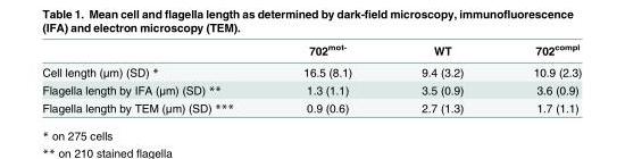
<table><thead><tr><td></td><td>702<sup>mot-</sup></td><td>WT</td><td>702<sup>compl</sup></td></tr></thead><tbody><tr><td>Cell length (μm) (SD) *</td><td>16.5 (8.1)</td><td>9.4 (3.2)</td><td>10.9 (2.3)</td></tr><tr><td>Flagella length by IFA (μm) (SD) **</td><td>1.3 (1.1)</td><td>3.5 (0.9)</td><td>3.6 (0.9)</td></tr><tr><td>Flagella length by TEM (μm) (SD) ***</td><td>0.9 (0.6)</td><td>2.7 (1.3)</td><td>1.7 (1.1)</td></tr></tbody></table>